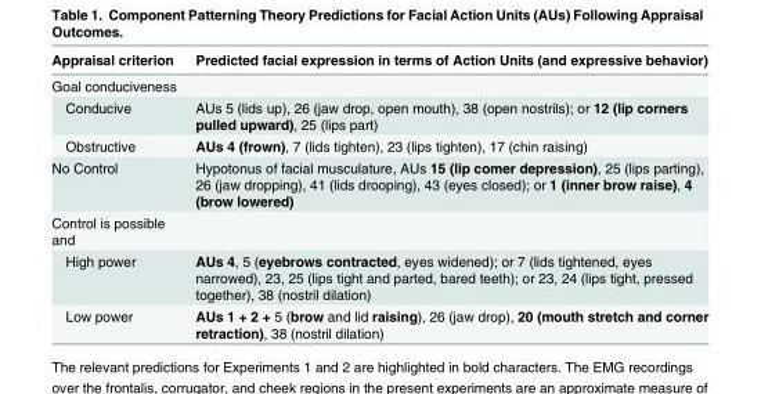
<table><thead><tr><td>Appraisal criterion</td><td>Predicted facial expression in terms of Action Units (and expressive behavior)</td></tr></thead><tbody><tr><td colspan="2">Goal conduciveness</td></tr><tr><td>Conducive</td><td>AUs 5 (lids up), 26 (jaw drop, open mouth), 38 (open nostrils); or 12 (lip corners pulled upward), 25 (lips part)</td></tr><tr><td>Obstructive</td><td>AUs 4 (frown), 7 (lids tighten), 23 (lips tighten), 17 (chin raising)</td></tr><tr><td>No Control</td><td>Hypotonus of facial musculature, AUs 15 (lip comer depression), 25 (lips parting), 26 (jaw dropping), 41 (lids drooping), 43 (eyes closed); or 1 (inner brow raise), 4 (brow lowered)</td></tr><tr><td colspan="2">Control is possible and</td></tr><tr><td>High power</td><td>AUs 4, 5 (eyebrows contracted, eyes widened); or 7 (lids tightened, eyes narrowed), 23, 25 (lips tight and parted, bared teeth); or 23, 24 (lips tight, pressed together), 38 (nostril dilation)</td></tr><tr><td>Low power</td><td>AUs 1 + 2 + 5 (brow and lid raising), 26 (jaw drop), 20 (mouth stretch and corner retraction), 38 (nostril dilation)</td></tr></tbody></table>